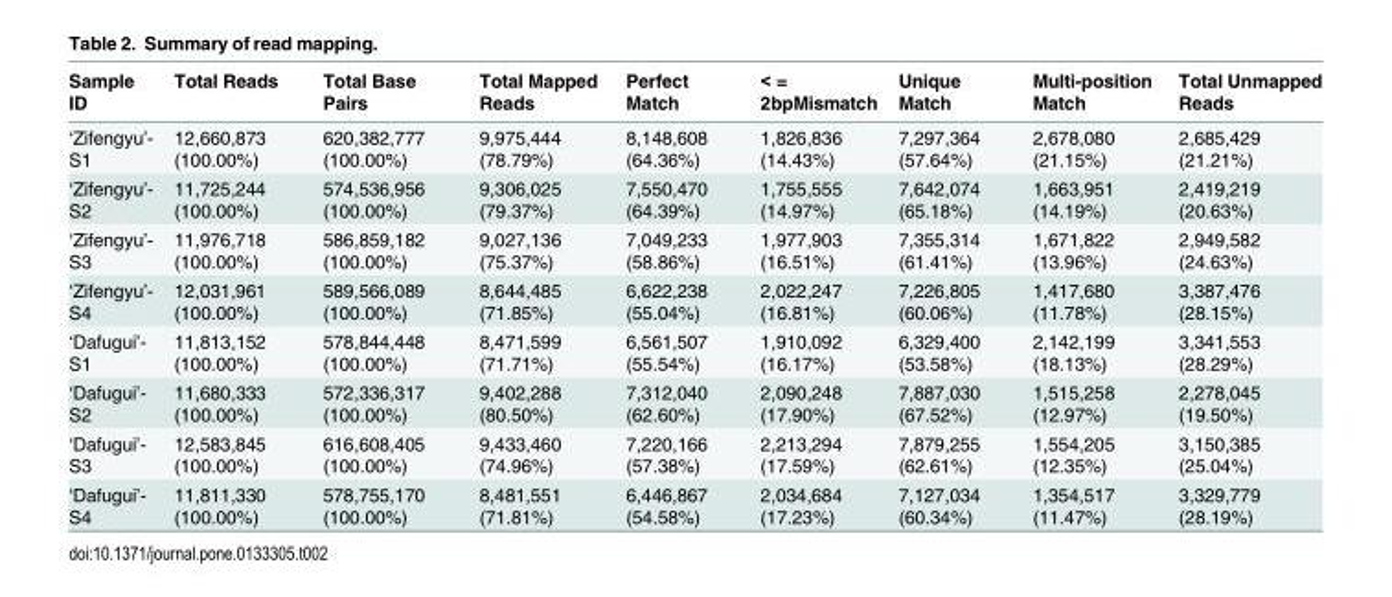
<table><thead><tr><td>Sample ID</td><td>Total Reads</td><td>Total Base Pairs</td><td>Total Mapped Reads</td><td>Perfect Match</td><td>&lt; = 2bpMismatch</td><td>Unique Match</td><td>Multi-position Match</td><td>Total Unmapped Reads</td></tr></thead><tbody><tr><td>‘Zifengyu’- S1</td><td>12,660,873 (100.00%)</td><td>620,382,777 (100.00%)</td><td>9,975,444 (78.79%)</td><td>8,148,608 (64.36%)</td><td>1,826,836 (14.43%)</td><td>7,297,364 (57.64%)</td><td>2,678,080 (21.15%)</td><td>2,685,429 (21.21%)</td></tr><tr><td>‘Zifengyu’- S2</td><td>11,725,244 (100.00%)</td><td>574,536,956 (100.00%)</td><td>9,306,025 (79.37%)</td><td>7,550,470 (64.39%)</td><td>1,755,555 (14.97%)</td><td>7,642,074 (65.18%)</td><td>1,663,951 (14.19%)</td><td>2,419,219 (20.63%)</td></tr><tr><td>‘Zifengyu’- S3</td><td>11,976,718 (100.00%)</td><td>586,859,182 (100.00%)</td><td>9,027,136 (75.37%)</td><td>7,049,233 (58.86%)</td><td>1,977,903 (16.51%)</td><td>7,355,314 (61.41%)</td><td>1,671,822 (13.96%)</td><td>2,949,582 (24.63%)</td></tr><tr><td>‘Zifengyu’- S4</td><td>12,031,961 (100.00%)</td><td>589,566,089 (100.00%)</td><td>8,644,485 (71.85%)</td><td>6,622,238 (55.04%)</td><td>2,022,247 (16.81%)</td><td>7,226,805 (60.06%)</td><td>1,417,680 (11.78%)</td><td>3,387,476 (28.15%)</td></tr><tr><td>‘Dafugui’- S1</td><td>11,813,152 (100.00%)</td><td>578,844,448 (100.00%)</td><td>8,471,599 (71.71%)</td><td>6,561,507 (55.54%)</td><td>1,910,092 (16.17%)</td><td>6,329,400 (53.58%)</td><td>2,142,199 (18.13%)</td><td>3,341,553 (28.29%)</td></tr><tr><td>‘Dafugui’- S2</td><td>11,680,333 (100.00%)</td><td>572,336,317 (100.00%)</td><td>9,402,288 (80.50%)</td><td>7,312,040 (62.60%)</td><td>2,090,248 (17.90%)</td><td>7,887,030 (67.52%)</td><td>1,515,258 (12.97%)</td><td>2,278,045 (19.50%)</td></tr><tr><td>‘Dafugui’- S3</td><td>12,583,845 (100.00%)</td><td>616,608,405 (100.00%)</td><td>9,433,460 (74.96%)</td><td>7,220,166 (57.38%)</td><td>2,213,294 (17.59%)</td><td>7,879,255 (62.61%)</td><td>1,554,205 (12.35%)</td><td>3,150,385 (25.04%)</td></tr><tr><td>‘Dafugui’- S4</td><td>11,811,330 (100.00%)</td><td>578,755,170 (100.00%)</td><td>8,481,551 (71.81%)</td><td>6,446,867 (54.58%)</td><td>2,034,684 (17.23%)</td><td>7,127,034 (60.34%)</td><td>1,354,517 (11.47%)</td><td>3,329,779 (28.19%)</td></tr></tbody></table>